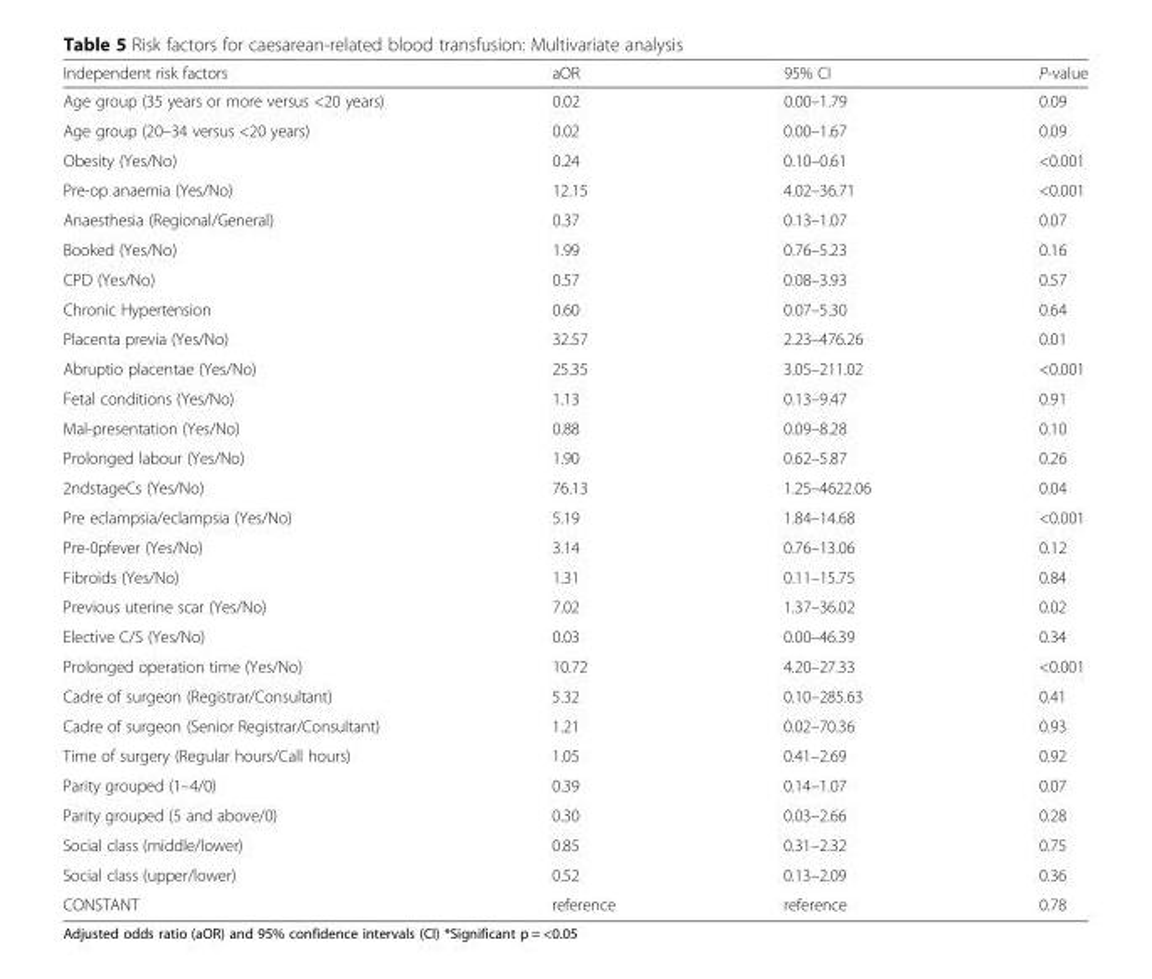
<table><thead><tr><td>Independent risk factors</td><td>aOR</td><td>95% CI</td><td>P-value</td></tr></thead><tbody><tr><td>Age group (35 years or more versus &lt;20 years)</td><td>0.02</td><td>0.00–1.79</td><td>0.09</td></tr><tr><td>Age group (20–34 versus &lt;20 years)</td><td>0.02</td><td>0.00–1.67</td><td>0.09</td></tr><tr><td>Obesity (Yes/No)</td><td>0.24</td><td>0.10–0.61</td><td>&lt;0.001</td></tr><tr><td>Pre-op anaemia (Yes/No)</td><td>12.15</td><td>4.02–36.71</td><td>&lt;0.001</td></tr><tr><td>Anaesthesia (Regional/General)</td><td>0.37</td><td>0.13–1.07</td><td>0.07</td></tr><tr><td>Booked (Yes/No)</td><td>1.99</td><td>0.76–5.23</td><td>0.16</td></tr><tr><td>CPD (Yes/No)</td><td>0.57</td><td>0.08–3.93</td><td>0.57</td></tr><tr><td>Chronic Hypertension</td><td>0.60</td><td>0.07–5.30</td><td>0.64</td></tr><tr><td>Placenta previa (Yes/No)</td><td>32.57</td><td>2.23–476.26</td><td>0.01</td></tr><tr><td>Abruptio placentae (Yes/No)</td><td>25.35</td><td>3.05–211.02</td><td>&lt;0.001</td></tr><tr><td>Fetal conditions (Yes/No)</td><td>1.13</td><td>0.13–9.47</td><td>0.91</td></tr><tr><td>Mal-presentation (Yes/No)</td><td>0.88</td><td>0.09–8.28</td><td>0.10</td></tr><tr><td>Prolonged labour (Yes/No)</td><td>1.90</td><td>0.62–5.87</td><td>0.26</td></tr><tr><td>2ndstageCs (Yes/No)</td><td>76.13</td><td>1.25–4622.06</td><td>0.04</td></tr><tr><td>Pre eclampsia/eclampsia (Yes/No)</td><td>5.19</td><td>1.84–14.68</td><td>&lt;0.001</td></tr><tr><td>Pre-0pfever (Yes/No)</td><td>3.14</td><td>0.76–13.06</td><td>0.12</td></tr><tr><td>Fibroids (Yes/No)</td><td>1.31</td><td>0.11–15.75</td><td>0.84</td></tr><tr><td>Previous uterine scar (Yes/No)</td><td>7.02</td><td>1.37–36.02</td><td>0.02</td></tr><tr><td>Elective C/S (Yes/No)</td><td>0.03</td><td>0.00–46.39</td><td>0.34</td></tr><tr><td>Prolonged operation time (Yes/No)</td><td>10.72</td><td>4.20–27.33</td><td>&lt;0.001</td></tr><tr><td>Cadre of surgeon (Registrar/Consultant)</td><td>5.32</td><td>0.10–285.63</td><td>0.41</td></tr><tr><td>Cadre of surgeon (Senior Registrar/Consultant)</td><td>1.21</td><td>0.02–70.36</td><td>0.93</td></tr><tr><td>Time of surgery (Regular hours/Call hours)</td><td>1.05</td><td>0.41–2.69</td><td>0.92</td></tr><tr><td>Parity grouped (1–4/0)</td><td>0.39</td><td>0.14–1.07</td><td>0.07</td></tr><tr><td>Parity grouped (5 and above/0)</td><td>0.30</td><td>0.03–2.66</td><td>0.28</td></tr><tr><td>Social class (middle/lower)</td><td>0.85</td><td>0.31–2.32</td><td>0.75</td></tr><tr><td>Social class (upper/lower)</td><td>0.52</td><td>0.13–2.09</td><td>0.36</td></tr><tr><td>CONSTANT</td><td>reference</td><td>reference</td><td>0.78</td></tr></tbody></table>